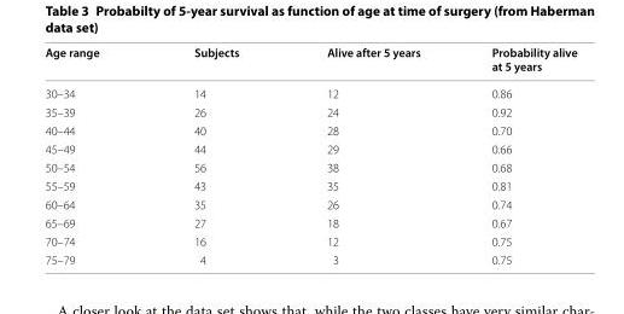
<table><thead><tr><td>Age range</td><td>Subjects</td><td>Alive after 5 years</td><td>Probability alive at 5 years</td></tr></thead><tbody><tr><td>30–34</td><td>14</td><td>12</td><td>0.86</td></tr><tr><td>35–39</td><td>26</td><td>24</td><td>0.92</td></tr><tr><td>40–44</td><td>40</td><td>28</td><td>0.70</td></tr><tr><td>45–49</td><td>44</td><td>29</td><td>0.66</td></tr><tr><td>50–54</td><td>56</td><td>38</td><td>0.68</td></tr><tr><td>55–59</td><td>43</td><td>35</td><td>0.81</td></tr><tr><td>60–64</td><td>35</td><td>26</td><td>0.74</td></tr><tr><td>65–69</td><td>27</td><td>18</td><td>0.67</td></tr><tr><td>70–74</td><td>16</td><td>12</td><td>0.75</td></tr><tr><td>75–79</td><td>4</td><td>3</td><td>0.75</td></tr></tbody></table>